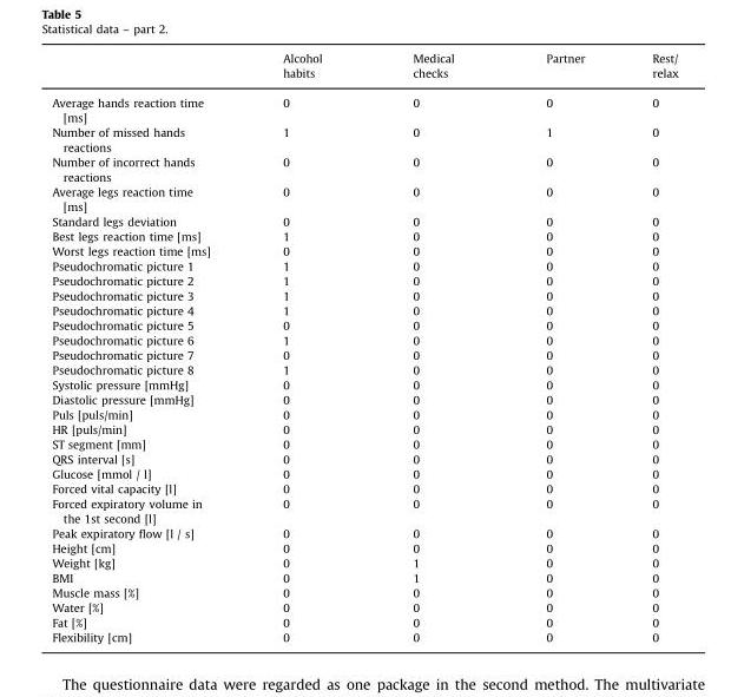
<table><thead><tr><td></td><td>Alcohol habits</td><td>Medical checks</td><td>Partner</td><td>Rest/ relax</td></tr></thead><tbody><tr><td>Average hands reaction time [ms]</td><td>0</td><td>0</td><td>0</td><td>0</td></tr><tr><td>Number of missed hands reactions</td><td>1</td><td>0</td><td>1</td><td>0</td></tr><tr><td>Number of incorrect hands reactions</td><td>0</td><td>0</td><td>0</td><td>0</td></tr><tr><td>Average legs reaction time [ms]</td><td>0</td><td>0</td><td>0</td><td>0</td></tr><tr><td>Standard legs deviation</td><td>0</td><td>0</td><td>0</td><td>0</td></tr><tr><td>Best legs reaction time [ms]</td><td>1</td><td>0</td><td>0</td><td>0</td></tr><tr><td>Worst legs reaction time [ms]</td><td>0</td><td>0</td><td>0</td><td>0</td></tr><tr><td>Pseudochromatic picture 1</td><td>1</td><td>0</td><td>0</td><td>0</td></tr><tr><td>Pseudochromatic picture 2</td><td>1</td><td>0</td><td>0</td><td>0</td></tr><tr><td>Pseudochromatic picture 3</td><td>1</td><td>0</td><td>0</td><td>0</td></tr><tr><td>Pseudochromatic picture 4</td><td>1</td><td>0</td><td>0</td><td>0</td></tr><tr><td>Pseudochromatic picture 5</td><td>0</td><td>0</td><td>0</td><td>0</td></tr><tr><td>Pseudochromatic picture 6</td><td>1</td><td>0</td><td>0</td><td>0</td></tr><tr><td>Pseudochromatic picture 7</td><td>0</td><td>0</td><td>0</td><td>0</td></tr><tr><td>Pseudochromatic picture 8</td><td>1</td><td>0</td><td>0</td><td>0</td></tr><tr><td>Systolic pressure [mmHg]</td><td>0</td><td>0</td><td>0</td><td>0</td></tr><tr><td>Diastolic pressure [mmHg]</td><td>0</td><td>0</td><td>0</td><td>0</td></tr><tr><td>Puls [puls/min]</td><td>0</td><td>0</td><td>0</td><td>0</td></tr><tr><td>HR [puls/min]</td><td>0</td><td>0</td><td>0</td><td>0</td></tr><tr><td>ST segment [mm]</td><td>0</td><td>0</td><td>0</td><td>0</td></tr><tr><td>QRS interval [s]</td><td>0</td><td>0</td><td>0</td><td>0</td></tr><tr><td>Glucose [mmol / l]</td><td>0</td><td>0</td><td>0</td><td>0</td></tr><tr><td>Forced vital capacity [l]</td><td>0</td><td>0</td><td>0</td><td>0</td></tr><tr><td>Forced expiratory volume in the 1st second [l]</td><td>0</td><td>0</td><td>0</td><td>0</td></tr><tr><td>Peak expiratory flow [l / s]</td><td>0</td><td>0</td><td>0</td><td>0</td></tr><tr><td>Height [cm]</td><td>0</td><td>0</td><td>0</td><td>0</td></tr><tr><td>Weight [kg]</td><td>0</td><td>1</td><td>0</td><td>0</td></tr><tr><td>BMI</td><td>0</td><td>1</td><td>0</td><td>0</td></tr><tr><td>Muscle mass [%]</td><td>0</td><td>0</td><td>0</td><td>0</td></tr><tr><td>Water [%]</td><td>0</td><td>0</td><td>0</td><td>0</td></tr><tr><td>Fat [%]</td><td>0</td><td>0</td><td>0</td><td>0</td></tr><tr><td>Flexibility [cm]</td><td>0</td><td>0</td><td>0</td><td>0</td></tr></tbody></table>